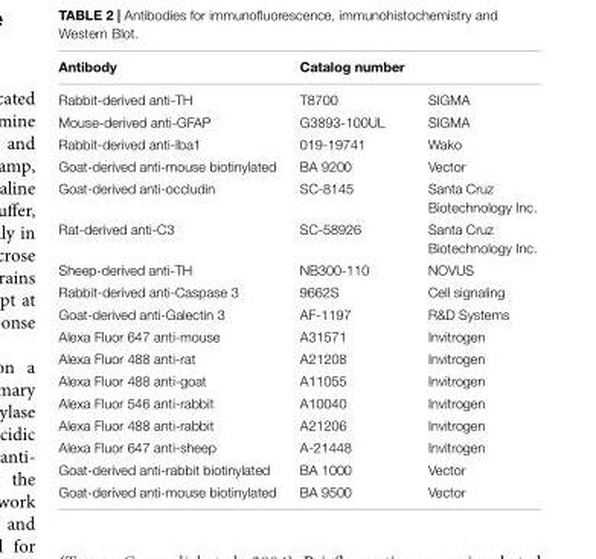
<table><thead><tr><td>Antibody</td><td>Catalog number</td><td></td></tr></thead><tbody><tr><td>Rabbit-derived anti-TH</td><td>T8700</td><td>SIGMA</td></tr><tr><td>Mouse-derived anti-GFAP</td><td>G3893-100UL</td><td>SIGMA</td></tr><tr><td>Rabbit-derived anti-Iba1</td><td>019-19741</td><td>Wako</td></tr><tr><td>Goat-derived anti-mouse biotinylated</td><td>BA 9200</td><td>Vector</td></tr><tr><td>Goat-derived anti-occludin</td><td>SC-8145</td><td>Santa Cruz Biotechnology Inc.</td></tr><tr><td>Rat-derived anti-C3</td><td>SC-58926</td><td>Santa Cruz Biotechnology Inc.</td></tr><tr><td>Sheep-derived anti-TH</td><td>NB300-110</td><td>NOVUS</td></tr><tr><td>Rabbit-derived anti-Caspase 3</td><td>9662S</td><td>Cell signaling</td></tr><tr><td>Goat-derived anti-Galectin 3</td><td>AF-1197</td><td>R&amp;D Systems</td></tr><tr><td>Alexa Fluor 647 anti-mouse</td><td>A31571</td><td>Invitrogen</td></tr><tr><td>Alexa Fluor 488 anti-rat</td><td>A21208</td><td>Invitrogen</td></tr><tr><td>Alexa Fluor 488 anti-goat</td><td>A11055</td><td>Invitrogen</td></tr><tr><td>Alexa Fluor 546 anti-rabbit</td><td>A10040</td><td>Invitrogen</td></tr><tr><td>Alexa Fluor 488 anti-rabbit</td><td>A21206</td><td>Invitrogen</td></tr><tr><td>Alexa Fluor 647 anti-sheep</td><td>A-21448</td><td>Invitrogen</td></tr><tr><td>Goat-derived anti-rabbit biotinylated</td><td>BA 1000</td><td>Vector</td></tr><tr><td>Goat-derived anti-mouse biotinylated</td><td>BA 9500</td><td>Vector</td></tr></tbody></table>